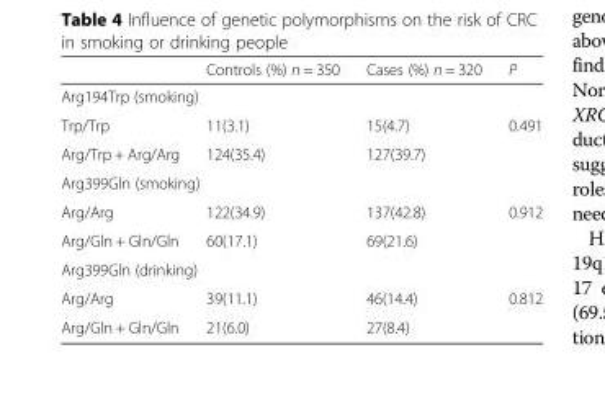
<table><thead><tr><td></td><td>Controls (%) n = 350</td><td>Cases (%) n = 320</td><td>P</td></tr></thead><tbody><tr><td colspan="4">Arg194Trp (smoking)</td></tr><tr><td>Trp/Trp</td><td>11(3.1)</td><td>15(4.7)</td><td>0.491</td></tr><tr><td>Arg/Trp + Arg/Arg</td><td>124(35.4)</td><td>127(39.7)</td><td></td></tr><tr><td colspan="4">Arg399Gln (smoking)</td></tr><tr><td>Arg/Arg</td><td>122(34.9)</td><td>137(42.8)</td><td>0.912</td></tr><tr><td>Arg/Gln + Gln/Gln</td><td>60(17.1)</td><td>69(21.6)</td><td></td></tr><tr><td colspan="4">Arg399Gln (drinking)</td></tr><tr><td>Arg/Arg</td><td>39(11.1)</td><td>46(14.4)</td><td>0.812</td></tr><tr><td>Arg/Gln + Gln/Gln</td><td>21(6.0)</td><td>27(8.4)</td><td></td></tr></tbody></table>